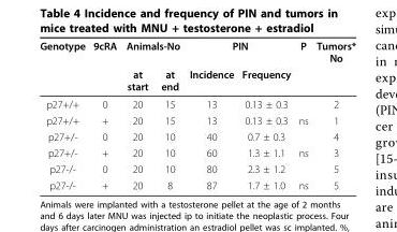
<table><thead><tr><td rowspan="2">Genotype</td><td rowspan="2">9cRA</td><td colspan="2">Animals-No</td><td colspan="2">PIN</td><td rowspan="2">P</td><td rowspan="2">Tumors* No</td></tr><tr><td>at start</td><td>at end</td><td>Incidence</td><td>Frequency</td></tr></thead><tbody><tr><td>p27+/+</td><td>0</td><td>20</td><td>15</td><td>13</td><td>0.13 ± 0.3</td><td></td><td>2</td></tr><tr><td>p27+/+</td><td>+</td><td>20</td><td>15</td><td>13</td><td>0.13 ± 0.3</td><td>ns</td><td>1</td></tr><tr><td>p27+/-</td><td>0</td><td>20</td><td>10</td><td>40</td><td>0.7 ± 0.3</td><td></td><td>4</td></tr><tr><td>p27+/-</td><td>+</td><td>20</td><td>10</td><td>60</td><td>1.3 ± 1.1</td><td>ns</td><td>3</td></tr><tr><td>p27-/-</td><td>0</td><td>20</td><td>10</td><td>80</td><td>2.3 ± 1.2</td><td></td><td>5</td></tr><tr><td>p27-/-</td><td>+</td><td>20</td><td>8</td><td>87</td><td>1.7 ± 1.0</td><td>ns</td><td>5</td></tr></tbody></table>